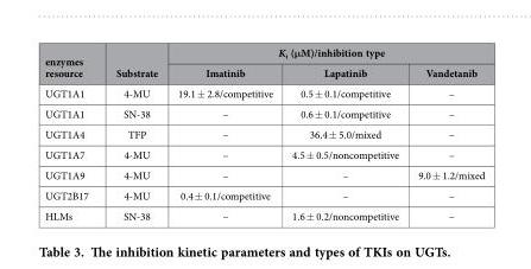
<table><thead><tr><td rowspan="2">enzymes resource</td><td rowspan="2">Substrate</td><td colspan="3">K<sub>i</sub> (μM)/inhibition type</td></tr><tr><td>Imatinib</td><td>Lapatinib</td><td>Vandetanib</td></tr></thead><tbody><tr><td>UGT1A1</td><td>4-MU</td><td>19.1 ± 2.8/competitive</td><td>0.5 ± 0.1/competitive</td><td>–</td></tr><tr><td>UGT1A1</td><td>SN-38</td><td>–</td><td>0.6 ± 0.1/competitive</td><td>–</td></tr><tr><td>UGT1A4</td><td>TFP</td><td>–</td><td>36.4 ± 5.0/mixed</td><td>–</td></tr><tr><td>UGT1A7</td><td>4-MU</td><td>–</td><td>4.5 ± 0.5/noncompetitive</td><td>–</td></tr><tr><td>UGT1A9</td><td>4-MU</td><td>–</td><td>–</td><td>9.0 ± 1.2/mixed</td></tr><tr><td>UGT2B17</td><td>4-MU</td><td>0.4 ± 0.1/competitive</td><td>–</td><td>–</td></tr><tr><td>HLMs</td><td>SN-38</td><td>–</td><td>1.6 ± 0.2/noncompetitive</td><td>–</td></tr></tbody></table>